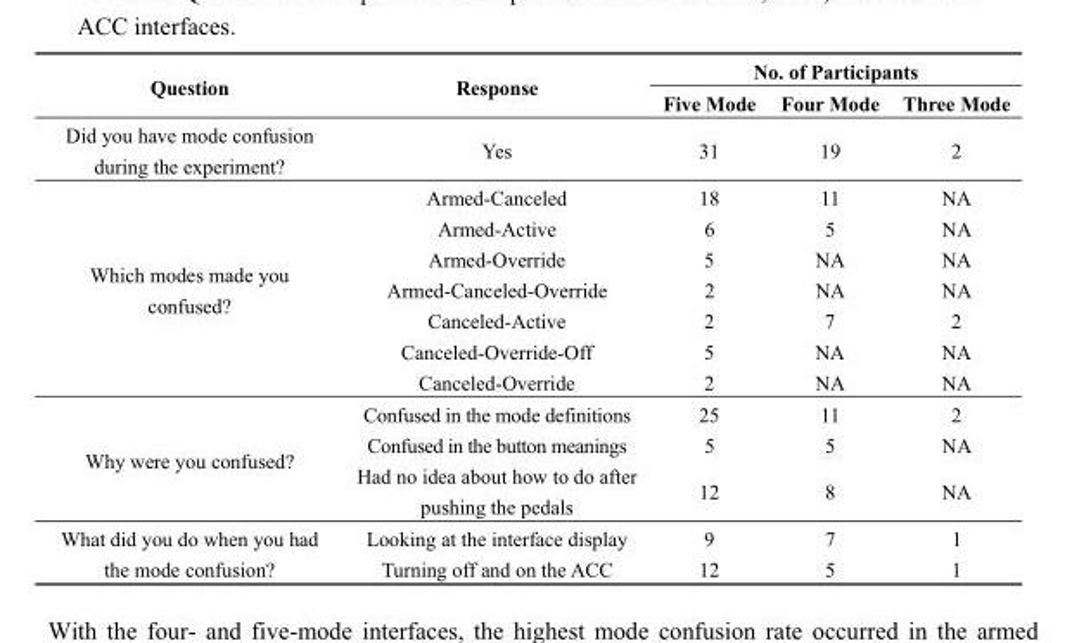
<table><thead><tr><td rowspan="2">Question</td><td rowspan="2">Response</td><td colspan="3">No. of Participants</td></tr><tr><td>Five Mode</td><td>Four Mode</td><td>Three Mode</td></tr></thead><tbody><tr><td>Did you have mode confusion during the experiment?</td><td>Yes</td><td>31</td><td>19</td><td>2</td></tr><tr><td rowspan="7">Which modes made you confused?</td><td>Armed-Canceled</td><td>18</td><td>11</td><td>NA</td></tr><tr><td>Armed-Active</td><td>6</td><td>5</td><td>NA</td></tr><tr><td>Armed-Override</td><td>5</td><td>NA</td><td>NA</td></tr><tr><td>Armed-Canceled-Override</td><td>2</td><td>NA</td><td>NA</td></tr><tr><td>Canceled-Active</td><td>2</td><td>7</td><td>2</td></tr><tr><td>Canceled-Override-Off</td><td>5</td><td>NA</td><td>NA</td></tr><tr><td>Canceled-Override</td><td>2</td><td>NA</td><td>NA</td></tr><tr><td rowspan="3">Why were you confused?</td><td>Confused in the mode definitions</td><td>25</td><td>11</td><td>2</td></tr><tr><td>Confused in the button meanings</td><td>5</td><td>5</td><td>NA</td></tr><tr><td>Had no idea about how to do after pushing the pedals</td><td>12</td><td>8</td><td>NA</td></tr><tr><td rowspan="2">What did you do when you had the mode confusion?</td><td>Looking at the interface display</td><td>9</td><td>7</td><td>1</td></tr><tr><td>Turning off and on the ACC</td><td>12</td><td>5</td><td>1</td></tr></tbody></table>